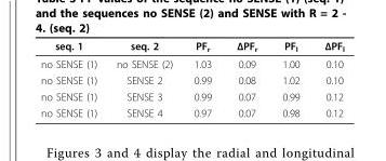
<table><thead><tr><td>seq. 1</td><td>seq. 2</td><td>PF<sub>r</sub></td><td>ΔPF<sub>r</sub></td><td>PF<sub>l</sub></td><td>ΔPF<sub>l</sub></td></tr></thead><tbody><tr><td>no SENSE (1)</td><td>no SENSE (2)</td><td>1.03</td><td>0.09</td><td>1.00</td><td>0.10</td></tr><tr><td>no SENSE (1)</td><td>SENSE 2</td><td>0.99</td><td>0.08</td><td>1.02</td><td>0.10</td></tr><tr><td>no SENSE (1)</td><td>SENSE 3</td><td>0.99</td><td>0.07</td><td>0.99</td><td>0.12</td></tr><tr><td>no SENSE (1)</td><td>SENSE 4</td><td>0.97</td><td>0.07</td><td>0.98</td><td>0.12</td></tr></tbody></table>